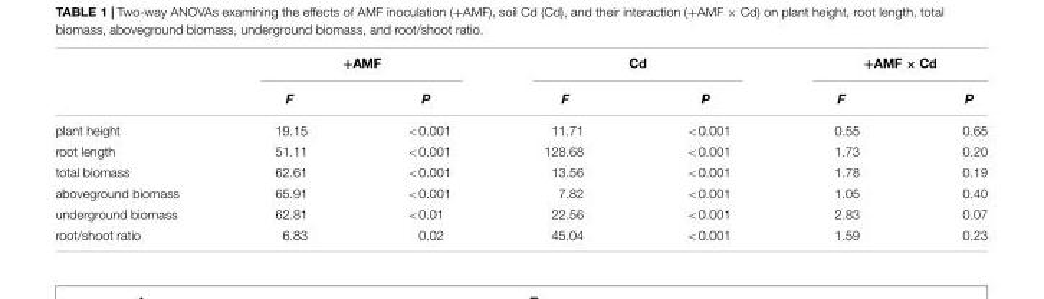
<table><thead><tr><td rowspan="2"></td><td colspan="2">+AMF</td><td colspan="2">Cd</td><td colspan="2">+AMF × Cd</td></tr><tr><td>F</td><td>P</td><td>F</td><td>P</td><td>F</td><td>P</td></tr></thead><tbody><tr><td>plant height</td><td>19.15</td><td>&lt;0.001</td><td>11.71</td><td>&lt;0.001</td><td>0.55</td><td>0.65</td></tr><tr><td>root length</td><td>51.11</td><td>&lt;0.001</td><td>128.68</td><td>&lt;0.001</td><td>1.73</td><td>0.20</td></tr><tr><td>total biomass</td><td>62.61</td><td>&lt;0.001</td><td>13.56</td><td>&lt;0.001</td><td>1.78</td><td>0.19</td></tr><tr><td>aboveground biomass</td><td>65.91</td><td>&lt;0.001</td><td>7.82</td><td>&lt;0.001</td><td>1.05</td><td>0.40</td></tr><tr><td>underground biomass</td><td>62.81</td><td>&lt;0.01</td><td>22.56</td><td>&lt;0.001</td><td>2.83</td><td>0.07</td></tr><tr><td>root/shoot ratio</td><td>6.83</td><td>0.02</td><td>45.04</td><td>&lt;0.001</td><td>1.59</td><td>0.23</td></tr></tbody></table>